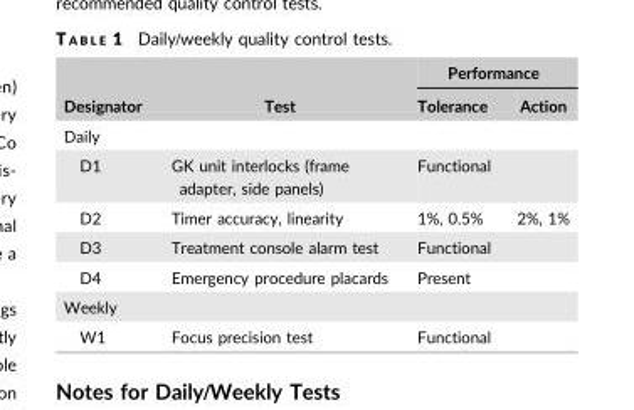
<table><thead><tr><td rowspan="2">Designator</td><td rowspan="2">Test</td><td colspan="2">Performance</td></tr><tr><td>Tolerance</td><td>Action</td></tr></thead><tbody><tr><td colspan="4">Daily</td></tr><tr><td>D1</td><td>GK unit interlocks (frame adapter, side panels)</td><td colspan="2">Functional</td></tr><tr><td>D2</td><td>Timer accuracy, linearity</td><td>1%, 0.5%</td><td>2%, 1%</td></tr><tr><td>D3</td><td>Treatment console alarm test</td><td colspan="2">Functional</td></tr><tr><td>D4</td><td>Emergency procedure placards</td><td colspan="2">Present</td></tr><tr><td colspan="4">Weekly</td></tr><tr><td>W1</td><td>Focus precision test</td><td colspan="2">Functional</td></tr></tbody></table>